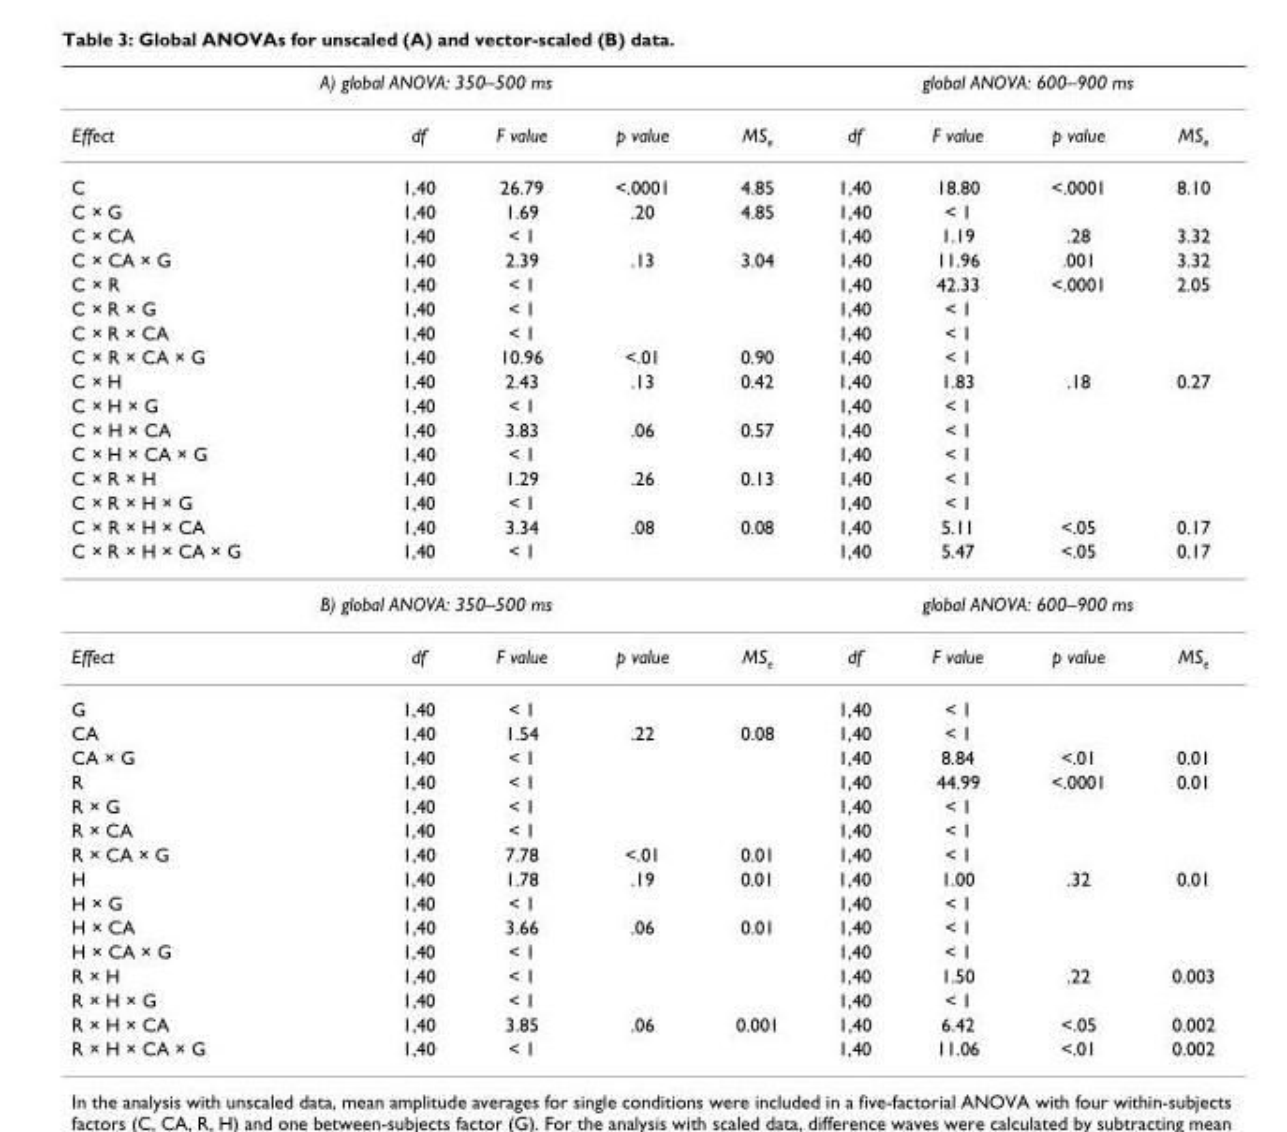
<table><thead><tr><td colspan="5">A) global ANOVA: 350–500 ms</td><td colspan="4">global ANOVA: 600–900 ms</td></tr><tr><td>Effect</td><td>df</td><td>F value</td><td>p value</td><td>MSe</td><td>df</td><td>F value</td><td>p value</td><td>MSe</td></tr></thead><tbody><tr><td>C</td><td>1,40</td><td>26.79</td><td>&lt;.0001</td><td>4.85</td><td>1,40</td><td>18.80</td><td>&lt;.0001</td><td>8.10</td></tr><tr><td>C × G</td><td>1,40</td><td>1.69</td><td>.20</td><td>4.85</td><td>1,40</td><td>&lt; 1</td><td></td><td></td></tr><tr><td>C × CA</td><td>1,40</td><td>&lt; 1</td><td></td><td></td><td>1,40</td><td>1.19</td><td>.28</td><td>3.32</td></tr><tr><td>C × CA × G</td><td>1,40</td><td>2.39</td><td>.13</td><td>3.04</td><td>1,40</td><td>11.96</td><td>.001</td><td>3.32</td></tr><tr><td>C × R</td><td>1,40</td><td>&lt; 1</td><td></td><td></td><td>1,40</td><td>42.33</td><td>&lt;.0001</td><td>2.05</td></tr><tr><td>C × R × G</td><td>1,40</td><td>&lt; 1</td><td></td><td></td><td>1,40</td><td>&lt; 1</td><td></td><td></td></tr><tr><td>C × R × CA</td><td>1,40</td><td>&lt; 1</td><td></td><td></td><td>1,40</td><td>&lt; 1</td><td></td><td></td></tr><tr><td>C × R × CA × G</td><td>1,40</td><td>10.96</td><td>&lt;.01</td><td>0.90</td><td>1,40</td><td>&lt; 1</td><td></td><td></td></tr><tr><td>C × H</td><td>1,40</td><td>2.43</td><td>.13</td><td>0.42</td><td>1,40</td><td>1.83</td><td>.18</td><td>0.27</td></tr><tr><td>C × H × G</td><td>1,40</td><td>&lt; 1</td><td></td><td></td><td>1,40</td><td>&lt; 1</td><td></td><td></td></tr><tr><td>C × H × CA</td><td>1,40</td><td>3.83</td><td>.06</td><td>0.57</td><td>1,40</td><td>&lt; 1</td><td></td><td></td></tr><tr><td>C × H × CA × G</td><td>1,40</td><td>&lt; 1</td><td></td><td></td><td>1,40</td><td>&lt; 1</td><td></td><td></td></tr><tr><td>C × R × H</td><td>1,40</td><td>1.29</td><td>.26</td><td>0.13</td><td>1,40</td><td>&lt; 1</td><td></td><td></td></tr><tr><td>C × R × H × G</td><td>1,40</td><td>&lt; 1</td><td></td><td></td><td>1,40</td><td>&lt; 1</td><td></td><td></td></tr><tr><td>C × R × H × CA</td><td>1,40</td><td>3.34</td><td>.08</td><td>0.08</td><td>1,40</td><td>5.11</td><td>&lt;.05</td><td>0.17</td></tr><tr><td>C × R × H × CA × G</td><td>1,40</td><td>&lt; 1</td><td></td><td></td><td>1,40</td><td>5.47</td><td>&lt;.05</td><td>0.17</td></tr><tr><td colspan="5">B) global ANOVA: 350–500 ms</td><td colspan="4">global ANOVA: 600–900 ms</td></tr><tr><td>Effect</td><td>df</td><td>F value</td><td>p value</td><td>MSe</td><td>df</td><td>F value</td><td>p value</td><td>MSe</td></tr><tr><td>G</td><td>1,40</td><td>&lt; 1</td><td></td><td></td><td>1,40</td><td>&lt; 1</td><td></td><td></td></tr><tr><td>CA</td><td>1,40</td><td>1.54</td><td>.22</td><td>0.08</td><td>1,40</td><td>&lt; 1</td><td></td><td></td></tr><tr><td>CA × G</td><td>1,40</td><td>&lt; 1</td><td></td><td></td><td>1,40</td><td>8.84</td><td>&lt;.01</td><td>0.01</td></tr><tr><td>R</td><td>1,40</td><td>&lt; 1</td><td></td><td></td><td>1,40</td><td>44.99</td><td>&lt;.0001</td><td>0.01</td></tr><tr><td>R × G</td><td>1,40</td><td>&lt; 1</td><td></td><td></td><td>1,40</td><td>&lt; 1</td><td></td><td></td></tr><tr><td>R × CA</td><td>1,40</td><td>&lt; 1</td><td></td><td></td><td>1,40</td><td>&lt; 1</td><td></td><td></td></tr><tr><td>R × CA × G</td><td>1,40</td><td>7.78</td><td>&lt;.01</td><td>0.01</td><td>1,40</td><td>&lt; 1</td><td></td><td></td></tr><tr><td>H</td><td>1,40</td><td>1.78</td><td>.19</td><td>0.01</td><td>1,40</td><td>1.00</td><td>.32</td><td>0.01</td></tr><tr><td>H × G</td><td>1,40</td><td>&lt; 1</td><td></td><td></td><td>1,40</td><td>&lt; 1</td><td></td><td></td></tr><tr><td>H × CA</td><td>1,40</td><td>3.66</td><td>.06</td><td>0.01</td><td>1,40</td><td>&lt; 1</td><td></td><td></td></tr><tr><td>H × CA × G</td><td>1,40</td><td>&lt; 1</td><td></td><td></td><td>1,40</td><td>&lt; 1</td><td></td><td></td></tr><tr><td>R × H</td><td>1,40</td><td>&lt; 1</td><td></td><td></td><td>1,40</td><td>1.50</td><td>.22</td><td>0.003</td></tr><tr><td>R × H × G</td><td>1,40</td><td>&lt; 1</td><td></td><td></td><td>1,40</td><td>&lt; 1</td><td></td><td></td></tr><tr><td>R × H × CA</td><td>1,40</td><td>3.85</td><td>.06</td><td>0.001</td><td>1,40</td><td>6.42</td><td>&lt;.05</td><td>0.002</td></tr><tr><td>R × H × CA × G</td><td>1,40</td><td>&lt; 1</td><td></td><td></td><td>1,40</td><td>11.06</td><td>&lt;.01</td><td>0.002</td></tr></tbody></table>